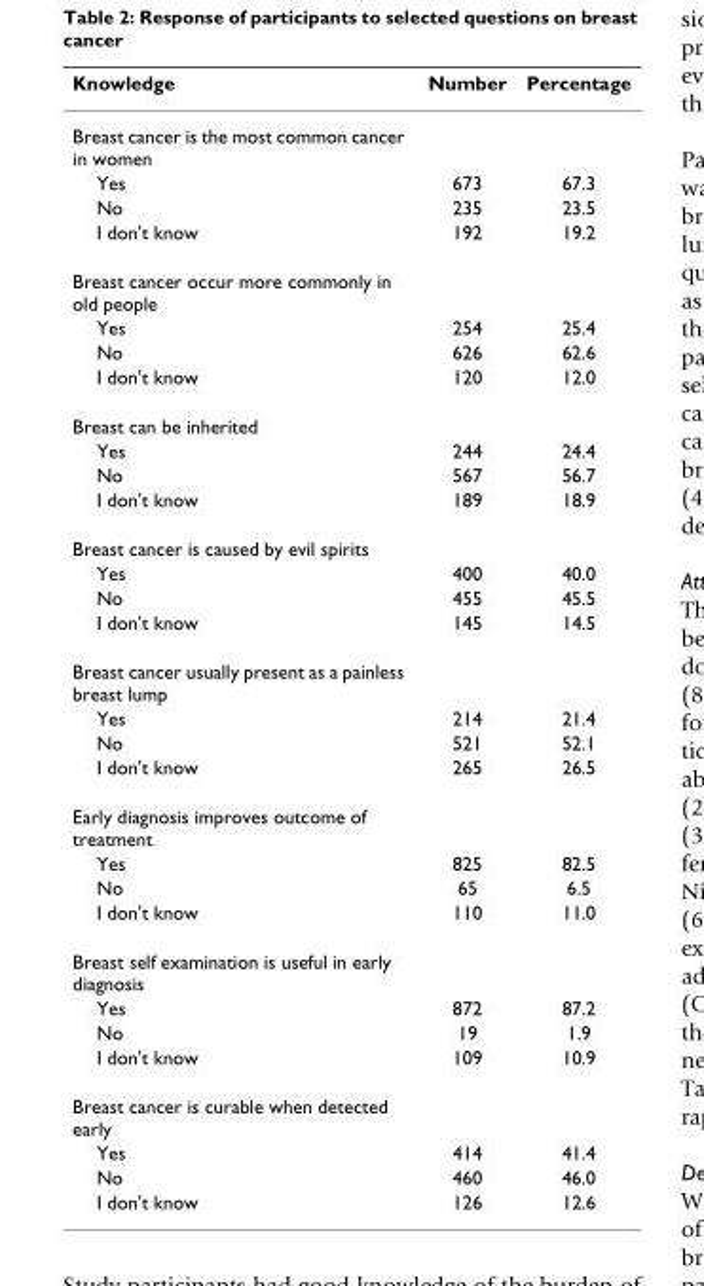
<table><thead><tr><td>Knowledge</td><td>Number</td><td>Percentage</td></tr></thead><tbody><tr><td colspan="3">Breast cancer is the most common cancer in women</td></tr><tr><td>Yes</td><td>673</td><td>67.3</td></tr><tr><td>No</td><td>235</td><td>23.5</td></tr><tr><td>I don&#x27;t know</td><td>192</td><td>19.2</td></tr><tr><td colspan="3">Breast cancer occur more commonly in old people</td></tr><tr><td>Yes</td><td>254</td><td>25.4</td></tr><tr><td>No</td><td>626</td><td>62.6</td></tr><tr><td>I don&#x27;t know</td><td>120</td><td>12.0</td></tr><tr><td colspan="3">Breast can be inherited</td></tr><tr><td>Yes</td><td>244</td><td>24.4</td></tr><tr><td>No</td><td>567</td><td>56.7</td></tr><tr><td>I don&#x27;t know</td><td>189</td><td>18.9</td></tr><tr><td colspan="3">Breast cancer is caused by evil spirits</td></tr><tr><td>Yes</td><td>400</td><td>40.0</td></tr><tr><td>No</td><td>455</td><td>45.5</td></tr><tr><td>I don&#x27;t know</td><td>145</td><td>14.5</td></tr><tr><td colspan="3">Breast cancer usually present as a painless breast lump</td></tr><tr><td>Yes</td><td>214</td><td>21.4</td></tr><tr><td>No</td><td>521</td><td>52.1</td></tr><tr><td>I don&#x27;t know</td><td>265</td><td>26.5</td></tr><tr><td colspan="3">Early diagnosis improves outcome of treatment</td></tr><tr><td>Yes</td><td>825</td><td>82.5</td></tr><tr><td>No</td><td>65</td><td>6.5</td></tr><tr><td>I don&#x27;t know</td><td>110</td><td>11.0</td></tr><tr><td colspan="3">Breast self examination is useful in early diagnosis</td></tr><tr><td>Yes</td><td>872</td><td>87.2</td></tr><tr><td>No</td><td>19</td><td>1.9</td></tr><tr><td>I don&#x27;t know</td><td>109</td><td>10.9</td></tr><tr><td colspan="3">Breast cancer is curable when detected early</td></tr><tr><td>Yes</td><td>414</td><td>41.4</td></tr><tr><td>No</td><td>460</td><td>46.0</td></tr><tr><td>I don&#x27;t know</td><td>126</td><td>12.6</td></tr></tbody></table>